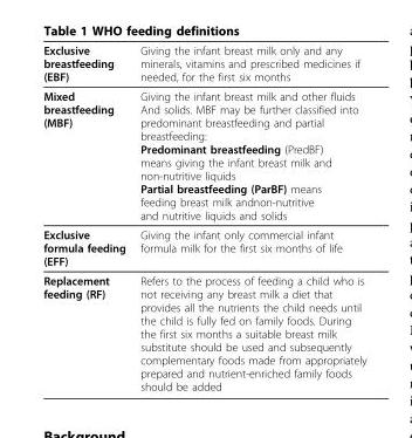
<table><thead><tr><td>Exclusive breastfeeding (EBF)</td><td>Giving the infant breast milk only and any minerals, vitamins and prescribed medicines if needed, for the first six months</td></tr></thead><tbody><tr><td>Mixed breastfeeding (MBF)</td><td>Giving the infant breast milk and other fluids And solids. MBF may be further classified into predominant breastfeeding and partial breastfeeding: Predominant breastfeeding (PredBF) means giving the infant breast milk and non-nutritive liquids Partial breastfeeding (ParBF) means feeding breast milk andnon-nutritive and nutritive liquids and solids</td></tr><tr><td>Exclusive formula feeding (EFF)</td><td>Giving the infant only commercial infant formula milk for the first six months of life</td></tr><tr><td>Replacement feeding (RF)</td><td>Refers to the process of feeding a child who is not receiving any breast milk a diet that provides all the nutrients the child needs until the child is fully fed on family foods. During the first six months a suitable breast milk substitute should be used and subsequently complementary foods made from appropriately prepared and nutrient-enriched family foods should be added</td></tr></tbody></table>